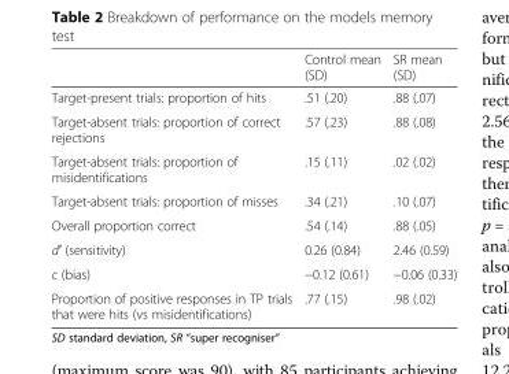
<table><thead><tr><td></td><td>Control mean (SD)</td><td>SR mean (SD)</td></tr></thead><tbody><tr><td>Target-present trials: proportion of hits</td><td>.51 (.20)</td><td>.88 (.07)</td></tr><tr><td>Target-absent trials: proportion of correct rejections</td><td>.57 (.23)</td><td>.88 (.08)</td></tr><tr><td>Target-absent trials: proportion of misidentifications</td><td>.15 (.11)</td><td>.02 (.02)</td></tr><tr><td>Target-absent trials: proportion of misses</td><td>.34 (.21)</td><td>.10 (.07)</td></tr><tr><td>Overall proportion correct</td><td>.54 (.14)</td><td>.88 (.05)</td></tr><tr><td>d′ (sensitivity)</td><td>0.26 (0.84)</td><td>2.46 (0.59)</td></tr><tr><td>c (bias)</td><td>−0.12 (0.61)</td><td>−0.06 (0.33)</td></tr><tr><td>Proportion of positive responses in TP trials that were hits (vs misidentifications)</td><td>.77 (.15)</td><td>.98 (.02)</td></tr></tbody></table>